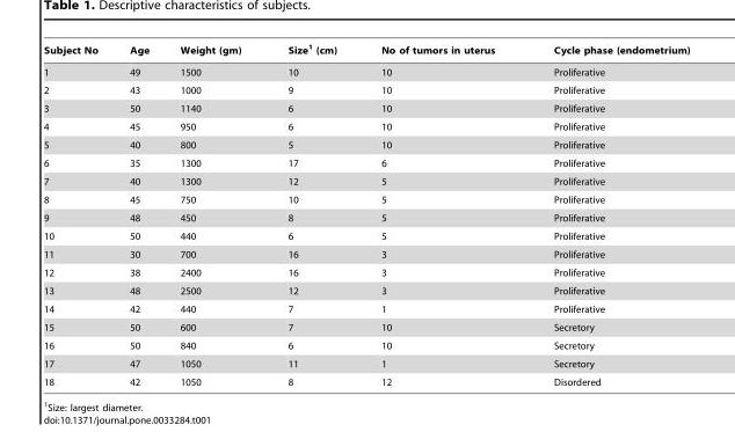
<table><thead><tr><td>Subject No</td><td>Age</td><td>Weight (gm)</td><td>Size<sup>1</sup> (cm)</td><td>No of tumors in uterus</td><td>Cycle phase (endometrium)</td></tr></thead><tbody><tr><td>1</td><td>49</td><td>1500</td><td>10</td><td>10</td><td>Proliferative</td></tr><tr><td>2</td><td>43</td><td>1000</td><td>9</td><td>10</td><td>Proliferative</td></tr><tr><td>3</td><td>50</td><td>1140</td><td>6</td><td>10</td><td>Proliferative</td></tr><tr><td>4</td><td>45</td><td>950</td><td>6</td><td>10</td><td>Proliferative</td></tr><tr><td>5</td><td>40</td><td>800</td><td>5</td><td>10</td><td>Proliferative</td></tr><tr><td>6</td><td>35</td><td>1300</td><td>17</td><td>6</td><td>Proliferative</td></tr><tr><td>7</td><td>40</td><td>1300</td><td>12</td><td>5</td><td>Proliferative</td></tr><tr><td>8</td><td>45</td><td>750</td><td>10</td><td>5</td><td>Proliferative</td></tr><tr><td>9</td><td>48</td><td>450</td><td>8</td><td>5</td><td>Proliferative</td></tr><tr><td>10</td><td>50</td><td>440</td><td>6</td><td>5</td><td>Proliferative</td></tr><tr><td>11</td><td>30</td><td>700</td><td>16</td><td>3</td><td>Proliferative</td></tr><tr><td>12</td><td>38</td><td>2400</td><td>16</td><td>3</td><td>Proliferative</td></tr><tr><td>13</td><td>48</td><td>2500</td><td>12</td><td>3</td><td>Proliferative</td></tr><tr><td>14</td><td>42</td><td>440</td><td>7</td><td>1</td><td>Proliferative</td></tr><tr><td>15</td><td>50</td><td>600</td><td>7</td><td>10</td><td>Secretory</td></tr><tr><td>16</td><td>50</td><td>840</td><td>6</td><td>10</td><td>Secretory</td></tr><tr><td>17</td><td>47</td><td>1050</td><td>11</td><td>1</td><td>Secretory</td></tr><tr><td>18</td><td>42</td><td>1050</td><td>8</td><td>12</td><td>Disordered</td></tr></tbody></table>